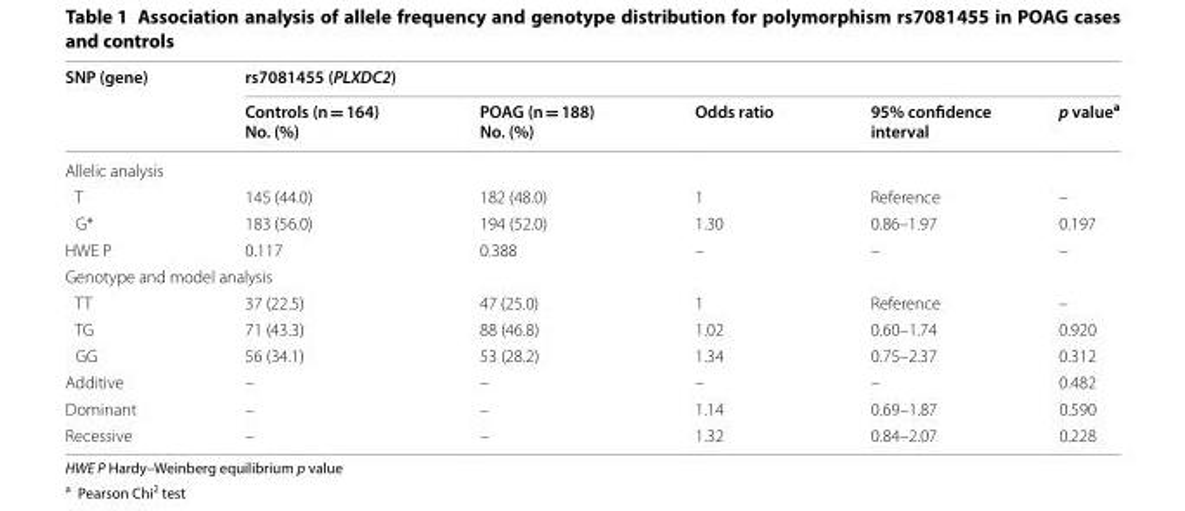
<table><thead><tr><td rowspan="2">SNP (gene)</td><td colspan="5">rs7081455 (PLXDC2)</td></tr><tr><td>Controls (n = 164) No. (%)</td><td>POAG (n = 188) No. (%)</td><td>Odds ratio</td><td>95% confidence interval</td><td>p value<sup>a</sup></td></tr></thead><tbody><tr><td colspan="6">Allelic analysis</td></tr><tr><td>T</td><td>145 (44.0)</td><td>182 (48.0)</td><td>1</td><td>Reference</td><td>–</td></tr><tr><td>G*</td><td>183 (56.0)</td><td>194 (52.0)</td><td>1.30</td><td>0.86–1.97</td><td>0.197</td></tr><tr><td>HWE P</td><td>0.117</td><td>0.388</td><td>–</td><td>–</td><td>–</td></tr><tr><td colspan="6">Genotype and model analysis</td></tr><tr><td>TT</td><td>37 (22.5)</td><td>47 (25.0)</td><td>1</td><td>Reference</td><td>–</td></tr><tr><td>TG</td><td>71 (43.3)</td><td>88 (46.8)</td><td>1.02</td><td>0.60–1.74</td><td>0.920</td></tr><tr><td>GG</td><td>56 (34.1)</td><td>53 (28.2)</td><td>1.34</td><td>0.75–2.37</td><td>0.312</td></tr><tr><td>Additive</td><td>–</td><td>–</td><td>–</td><td>–</td><td>0.482</td></tr><tr><td>Dominant</td><td>–</td><td>–</td><td>1.14</td><td>0.69–1.87</td><td>0.590</td></tr><tr><td>Recessive</td><td>–</td><td>–</td><td>1.32</td><td>0.84–2.07</td><td>0.228</td></tr></tbody></table>